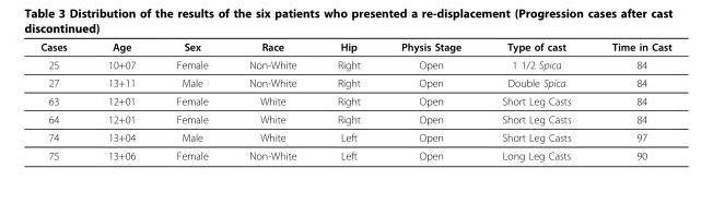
<table><thead><tr><td>Cases</td><td>Age</td><td>Sex</td><td>Race</td><td>Hip</td><td>Physis Stage</td><td>Type of cast</td><td>Time in Cast</td></tr></thead><tbody><tr><td>25</td><td>10+07</td><td>Female</td><td>Non-White</td><td>Right</td><td>Open</td><td>1 1/2 Spica</td><td>84</td></tr><tr><td>27</td><td>13+11</td><td>Male</td><td>Non-White</td><td>Right</td><td>Open</td><td>Double Spica</td><td>84</td></tr><tr><td>63</td><td>12+01</td><td>Female</td><td>White</td><td>Right</td><td>Open</td><td>Short Leg Casts</td><td>84</td></tr><tr><td>64</td><td>12+01</td><td>Female</td><td>White</td><td>Right</td><td>Open</td><td>Short Leg Casts</td><td>84</td></tr><tr><td>74</td><td>13+04</td><td>Male</td><td>White</td><td>Left</td><td>Open</td><td>Short Leg Casts</td><td>97</td></tr><tr><td>75</td><td>13+06</td><td>Female</td><td>Non-White</td><td>Left</td><td>Open</td><td>Long Leg Casts</td><td>90</td></tr></tbody></table>